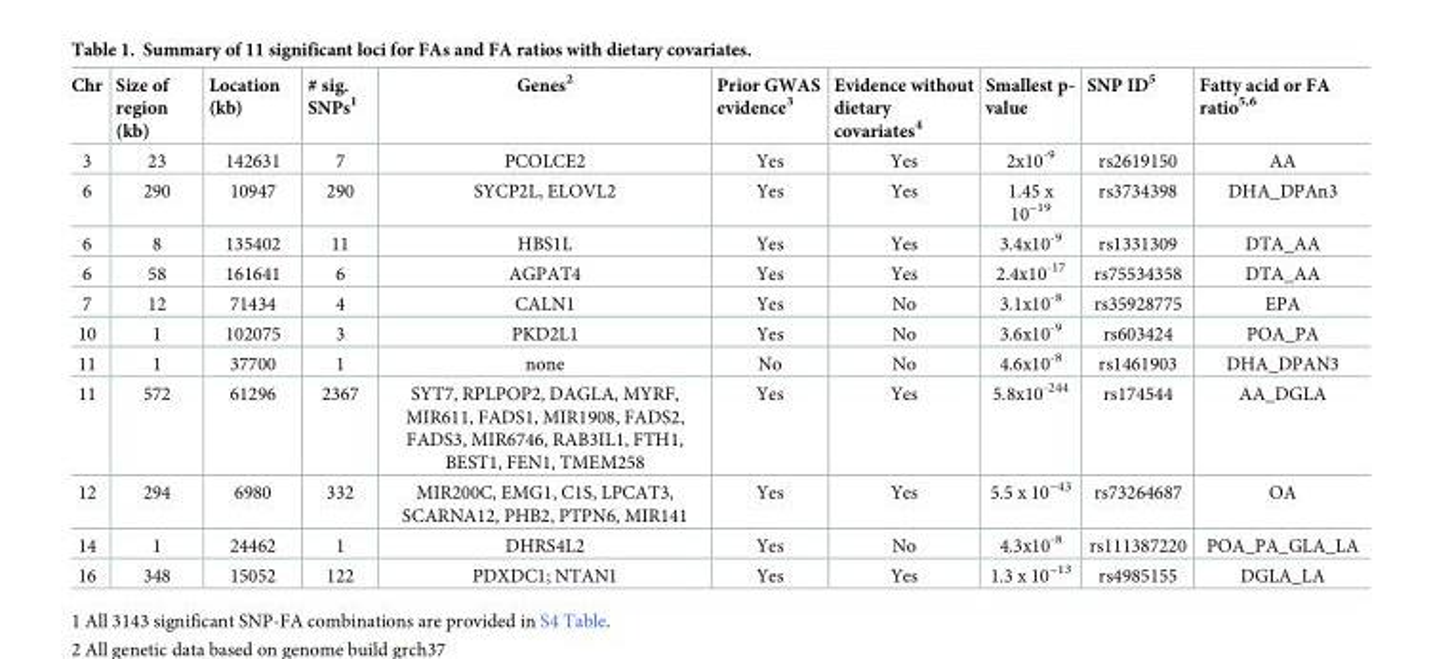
<table><thead><tr><td>Chr</td><td>Size of region (kb)</td><td>Location (kb)</td><td># sig. SNPs<sup>1</sup></td><td>Genes<sup>2</sup></td><td>Prior GWAS evidence<sup>3</sup></td><td>Evidence without dietary covariates<sup>4</sup></td><td>Smallest p- value</td><td>SNP ID<sup>5</sup></td><td>Fatty acid or FA ratio<sup>5,6</sup></td></tr></thead><tbody><tr><td>3</td><td>23</td><td>142631</td><td>7</td><td>PCOLCE2</td><td>Yes</td><td>Yes</td><td>2x10<sup>-9</sup></td><td>rs2619150</td><td>AA</td></tr><tr><td>6</td><td>290</td><td>10947</td><td>290</td><td>SYCP2L, ELOVL2</td><td>Yes</td><td>Yes</td><td>1.45 x 10<sup>−19</sup></td><td>rs3734398</td><td>DHA_DPAn3</td></tr><tr><td>6</td><td>8</td><td>135402</td><td>11</td><td>HBS1L</td><td>Yes</td><td>Yes</td><td>3.4x10<sup>-9</sup></td><td>rs1331309</td><td>DTA_AA</td></tr><tr><td>6</td><td>58</td><td>161641</td><td>6</td><td>AGPAT4</td><td>Yes</td><td>Yes</td><td>2.4x10<sup>-17</sup></td><td>rs75534358</td><td>DTA_AA</td></tr><tr><td>7</td><td>12</td><td>71434</td><td>4</td><td>CALN1</td><td>Yes</td><td>No</td><td>3.1x10<sup>-8</sup></td><td>rs35928775</td><td>EPA</td></tr><tr><td>10</td><td>1</td><td>102075</td><td>3</td><td>PKD2L1</td><td>Yes</td><td>No</td><td>3.6x10<sup>-9</sup></td><td>rs603424</td><td>POA_PA</td></tr><tr><td>11</td><td>1</td><td>37700</td><td>1</td><td>none</td><td>No</td><td>No</td><td>4.6x10<sup>-8</sup></td><td>rs1461903</td><td>DHA_DPAN3</td></tr><tr><td>11</td><td>572</td><td>61296</td><td>2367</td><td>SYT7, RPLPOP2, DAGLA, MYRF, MIR611, FADS1, MIR1908, FADS2, FADS3, MIR6746, RAB3IL1, FTH1, BEST1, FEN1, TMEM258</td><td>Yes</td><td>Yes</td><td>5.8x10<sup>-244</sup></td><td>rs174544</td><td>AA_DGLA</td></tr><tr><td>12</td><td>294</td><td>6980</td><td>332</td><td>MIR200C, EMG1, C1S, LPCAT3, SCARNA12, PHB2, PTPN6, MIR141</td><td>Yes</td><td>Yes</td><td>5.5 x 10<sup>−43</sup></td><td>rs73264687</td><td>OA</td></tr><tr><td>14</td><td>1</td><td>24462</td><td>1</td><td>DHRS4L2</td><td>Yes</td><td>No</td><td>4.3x10<sup>-8</sup></td><td>rs111387220</td><td>POA_PA_GLA_LA</td></tr><tr><td>16</td><td>348</td><td>15052</td><td>122</td><td>PDXDC1; NTAN1</td><td>Yes</td><td>Yes</td><td>1.3 x 10<sup>−13</sup></td><td>rs4985155</td><td>DGLA_LA</td></tr></tbody></table>